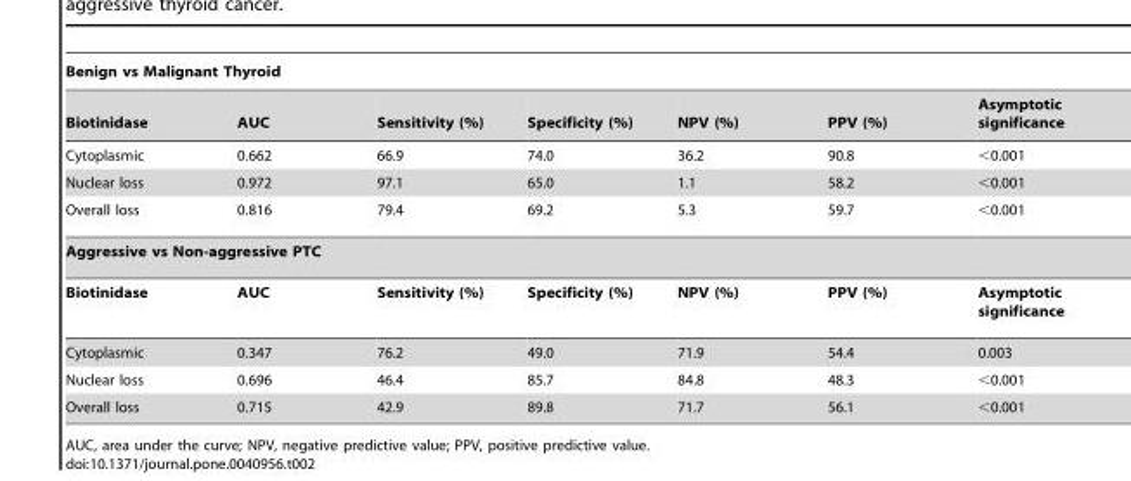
<table><thead><tr><td colspan="7">Benign vs Malignant Thyroid</td></tr><tr><td>Biotinidase</td><td>AUC</td><td>Sensitivity (%)</td><td>Specificity (%)</td><td>NPV (%)</td><td>PPV (%)</td><td>Asymptotic significance</td></tr></thead><tbody><tr><td>Cytoplasmic</td><td>0.662</td><td>66.9</td><td>74.0</td><td>36.2</td><td>90.8</td><td>&lt;0.001</td></tr><tr><td>Nuclear loss</td><td>0.972</td><td>97.1</td><td>65.0</td><td>1.1</td><td>58.2</td><td>&lt;0.001</td></tr><tr><td>Overall loss</td><td>0.816</td><td>79.4</td><td>69.2</td><td>5.3</td><td>59.7</td><td>&lt;0.001</td></tr><tr><td colspan="7">Aggressive vs Non-aggressive PTC</td></tr><tr><td>Biotinidase</td><td>AUC</td><td>Sensitivity (%)</td><td>Specificity (%)</td><td>NPV (%)</td><td>PPV (%)</td><td>Asymptotic significance</td></tr><tr><td>Cytoplasmic</td><td>0.347</td><td>76.2</td><td>49.0</td><td>71.9</td><td>54.4</td><td>0.003</td></tr><tr><td>Nuclear loss</td><td>0.696</td><td>46.4</td><td>85.7</td><td>84.8</td><td>48.3</td><td>&lt;0.001</td></tr><tr><td>Overall loss</td><td>0.715</td><td>42.9</td><td>89.8</td><td>71.7</td><td>56.1</td><td>&lt;0.001</td></tr></tbody></table>